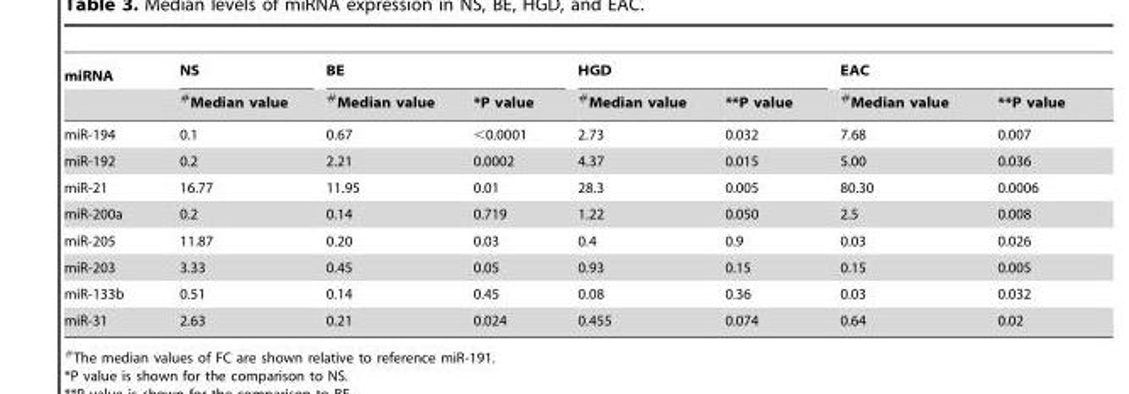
<table><thead><tr><td rowspan="2">miRNA</td><td rowspan="2">NS #Median value</td><td colspan="2">BE</td><td colspan="2">HGD</td><td colspan="2">EAC</td></tr><tr><td>#Median value</td><td>*P value</td><td>#Median value</td><td>**P value</td><td>#Median value</td><td>**P value</td></tr></thead><tbody><tr><td>miR-194</td><td>0.1</td><td>0.67</td><td>&lt;0.0001</td><td>2.73</td><td>0.032</td><td>7.68</td><td>0.007</td></tr><tr><td>miR-192</td><td>0.2</td><td>2.21</td><td>0.0002</td><td>4.37</td><td>0.015</td><td>5.00</td><td>0.036</td></tr><tr><td>miR-21</td><td>16.77</td><td>11.95</td><td>0.01</td><td>28.3</td><td>0.005</td><td>80.30</td><td>0.0006</td></tr><tr><td>miR-200a</td><td>0.2</td><td>0.14</td><td>0.719</td><td>1.22</td><td>0.050</td><td>2.5</td><td>0.008</td></tr><tr><td>miR-205</td><td>11.87</td><td>0.20</td><td>0.03</td><td>0.4</td><td>0.9</td><td>0.03</td><td>0.026</td></tr><tr><td>miR-203</td><td>3.33</td><td>0.45</td><td>0.05</td><td>0.93</td><td>0.15</td><td>0.15</td><td>0.005</td></tr><tr><td>miR-133b</td><td>0.51</td><td>0.14</td><td>0.45</td><td>0.08</td><td>0.36</td><td>0.03</td><td>0.032</td></tr><tr><td>miR-31</td><td>2.63</td><td>0.21</td><td>0.024</td><td>0.455</td><td>0.074</td><td>0.64</td><td>0.02</td></tr></tbody></table>